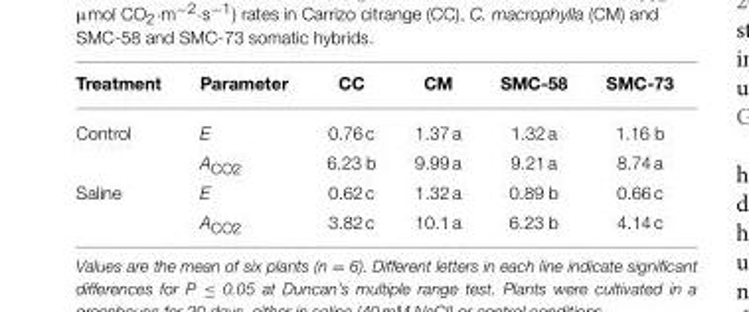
<table><thead><tr><td>Treatment</td><td>Parameter</td><td>CC</td><td>CM</td><td>SMC-58</td><td>SMC-73</td></tr></thead><tbody><tr><td rowspan="2">Control</td><td>E</td><td>0.76 c</td><td>1.37 a</td><td>1.32 a</td><td>1.16 b</td></tr><tr><td>A<sub>CO2</sub></td><td>6.23 b</td><td>9.99 a</td><td>9.21 a</td><td>8.74 a</td></tr><tr><td rowspan="2">Saline</td><td>E</td><td>0.62 c</td><td>1.32 a</td><td>0.89 b</td><td>0.66 c</td></tr><tr><td>A<sub>CO2</sub></td><td>3.82 c</td><td>10.1 a</td><td>6.23 b</td><td>4.14 c</td></tr></tbody></table>